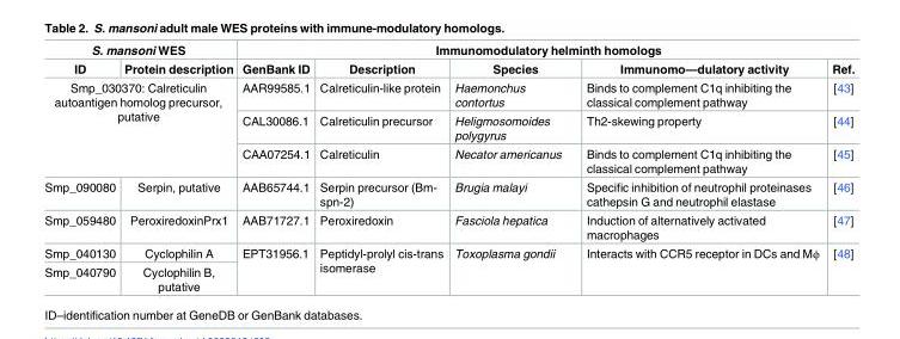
<table><thead><tr><td colspan="2">S. mansoni WES</td><td colspan="5">Immunomodulatory helminth homologs</td></tr><tr><td>ID</td><td>Protein description</td><td>GenBank ID</td><td>Description</td><td>Species</td><td>Immunomo—dulatory activity</td><td>Ref.</td></tr></thead><tbody><tr><td rowspan="3" colspan="2">Smp_030370: Calreticulin autoantigen homolog precursor, putative</td><td>AAR99585.1</td><td>Calreticulin-like protein</td><td>Haemonchus contortus</td><td>Binds to complement C1q inhibiting the classical complement pathway</td><td>[43]</td></tr><tr><td>CAL30086.1</td><td>Calreticulin precursor</td><td>Heligmosomoides polygyrus</td><td>Th2-skewing property</td><td>[44]</td></tr><tr><td>CAA07254.1</td><td>Calreticulin</td><td>Necator americanus</td><td>Binds to complement C1q inhibiting the classical complement pathway</td><td>[45]</td></tr><tr><td>Smp_090080</td><td>Serpin, putative</td><td>AAB65744.1</td><td>Serpin precursor (Bm- spn-2)</td><td>Brugia malayi</td><td>Specific inhibition of neutrophil proteinases cathepsin G and neutrophil elastase</td><td>[46]</td></tr><tr><td>Smp_059480</td><td>PeroxiredoxinPrx1</td><td>AAB71727.1</td><td>Peroxiredoxin</td><td>Fasciola hepatica</td><td>Induction of alternatively activated macrophages</td><td>[47]</td></tr><tr><td>Smp_040130</td><td>Cyclophilin A</td><td rowspan="2">EPT31956.1</td><td rowspan="2">Peptidyl-prolyl cis-trans isomerase</td><td rowspan="2">Toxoplasma gondii</td><td rowspan="2">Interacts with CCR5 receptor in DCs and Mϕ</td><td rowspan="2">[48]</td></tr><tr><td>Smp_040790</td><td>Cyclophilin B, putative</td></tr></tbody></table>